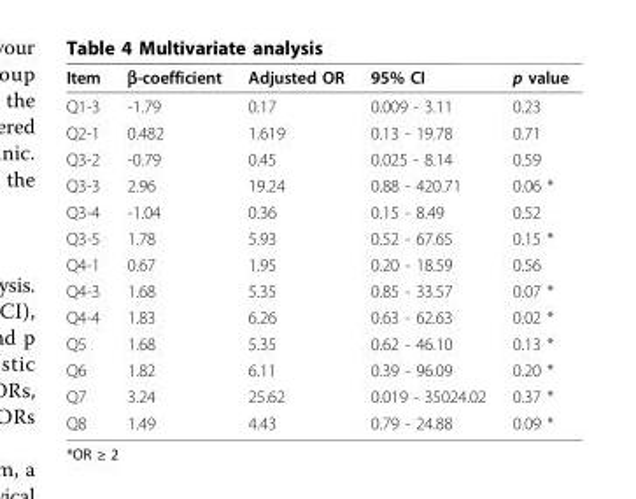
<table><thead><tr><td>Item</td><td>β-coefficient</td><td>Adjusted OR</td><td>95% CI</td><td>p value</td></tr></thead><tbody><tr><td>Q1-3</td><td>-1.79</td><td>0.17</td><td>0.009 - 3.11</td><td>0.23</td></tr><tr><td>Q2-1</td><td>0.482</td><td>1.619</td><td>0.13 - 19.78</td><td>0.71</td></tr><tr><td>Q3-2</td><td>-0.79</td><td>0.45</td><td>0.025 - 8.14</td><td>0.59</td></tr><tr><td>Q3-3</td><td>2.96</td><td>19.24</td><td>0.88 - 420.71</td><td>0.06 *</td></tr><tr><td>Q3-4</td><td>-1.04</td><td>0.36</td><td>0.15 - 8.49</td><td>0.52</td></tr><tr><td>Q3-5</td><td>1.78</td><td>5.93</td><td>0.52 - 67.65</td><td>0.15 *</td></tr><tr><td>Q4-1</td><td>0.67</td><td>1.95</td><td>0.20 - 18.59</td><td>0.56</td></tr><tr><td>Q4-3</td><td>1.68</td><td>5.35</td><td>0.85 - 33.57</td><td>0.07 *</td></tr><tr><td>Q4-4</td><td>1.83</td><td>6.26</td><td>0.63 - 62.63</td><td>0.02 *</td></tr><tr><td>Q5</td><td>1.68</td><td>5.35</td><td>0.62 - 46.10</td><td>0.13 *</td></tr><tr><td>Q6</td><td>1.82</td><td>6.11</td><td>0.39 - 96.09</td><td>0.20 *</td></tr><tr><td>Q7</td><td>3.24</td><td>25.62</td><td>0.019 - 35024.02</td><td>0.37 *</td></tr><tr><td>Q8</td><td>1.49</td><td>4.43</td><td>0.79 - 24.88</td><td>0.09 *</td></tr></tbody></table>